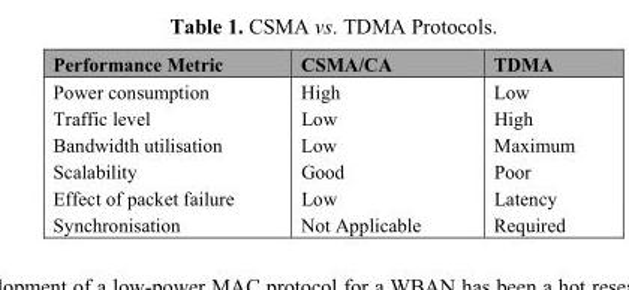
<table><thead><tr><td>Performance Metric</td><td>CSMA/CA</td><td>TDMA</td></tr></thead><tbody><tr><td>Power consumption</td><td>High</td><td>Low</td></tr><tr><td>Traffic level</td><td>Low</td><td>High</td></tr><tr><td>Bandwidth utilisation</td><td>Low</td><td>Maximum</td></tr><tr><td>Scalability</td><td>Good</td><td>Poor</td></tr><tr><td>Effect of packet failure</td><td>Low</td><td>Latency</td></tr><tr><td>Synchronisation</td><td>Not Applicable</td><td>Required</td></tr></tbody></table>